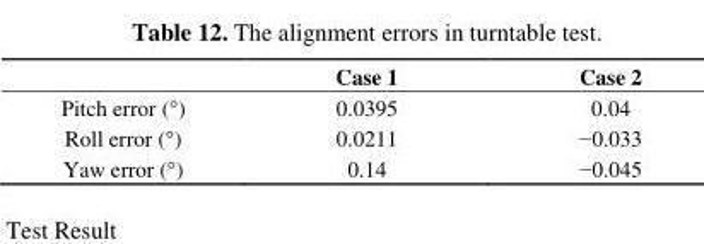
<table><thead><tr><td></td><td>Case 1</td><td>Case 2</td></tr></thead><tbody><tr><td>Pitch error (°)</td><td>0.0395</td><td>0.04</td></tr><tr><td>Roll error (°)</td><td>0.0211</td><td>−0.033</td></tr><tr><td>Yaw error (°)</td><td>0.14</td><td>−0.045</td></tr></tbody></table>